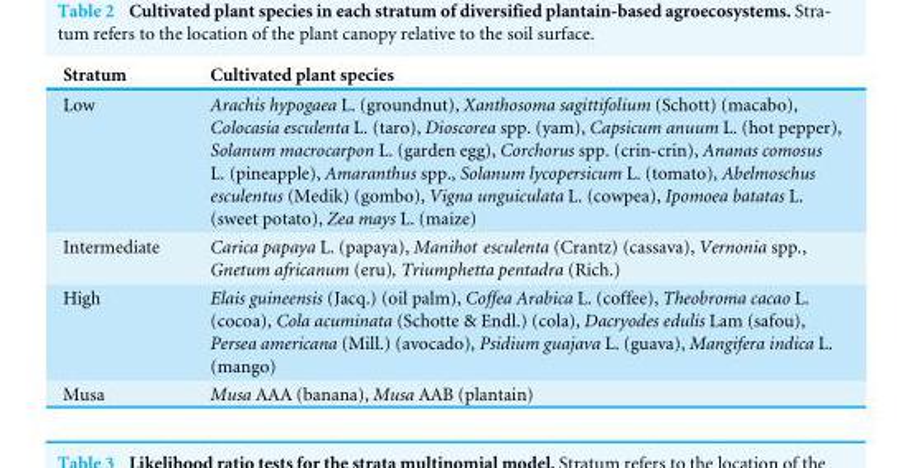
<table><thead><tr><td>Stratum</td><td>Cultivated plant species</td></tr></thead><tbody><tr><td>Low</td><td>Arachis hypogaea L. (groundnut), Xanthosoma sagittifolium (Schott) (macabo), Colocasia esculenta L. (taro), Dioscorea spp. (yam), Capsicum anuum L. (hot pepper), Solanum macrocarpon L. (garden egg), Corchorus spp. (crin-crin), Ananas comosus L. (pineapple), Amaranthus spp., Solanum lycopersicum L. (tomato), Abelmoschus esculentus (Medik) (gombo), Vigna unguiculata L. (cowpea), Ipomoea batatas L. (sweet potato), Zea mays L. (maize)</td></tr><tr><td>Intermediate</td><td>Carica papaya L. (papaya), Manihot esculenta (Crantz) (cassava), Vernonia spp., Gnetum africanum (eru), Triumphetta pentadra (Rich.)</td></tr><tr><td>High</td><td>Elais guineensis (Jacq.) (oil palm), Coffea Arabica L. (coffee), Theobroma cacao L. (cocoa), Cola acuminata (Schotte &amp; Endl.) (cola), Dacryodes edulis Lam (safou), Persea americana (Mill.) (avocado), Psidium guajava L. (guava), Mangifera indica L. (mango)</td></tr><tr><td>Musa</td><td>Musa AAA (banana), Musa AAB (plantain)</td></tr></tbody></table>